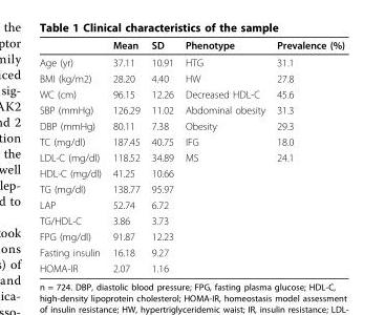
<table><thead><tr><td></td><td>Mean</td><td>SD</td><td>Phenotype</td><td>Prevalence (%)</td></tr></thead><tbody><tr><td>Age (yr)</td><td>37.11</td><td>10.91</td><td>HTG</td><td>31.1</td></tr><tr><td>BMI (kg/m2)</td><td>28.20</td><td>4.40</td><td>HW</td><td>27.8</td></tr><tr><td>WC (cm)</td><td>96.15</td><td>12.26</td><td>Decreased HDL-C</td><td>45.6</td></tr><tr><td>SBP (mmHg)</td><td>126.29</td><td>11.02</td><td>Abdominal obesity</td><td>31.3</td></tr><tr><td>DBP (mmHg)</td><td>80.11</td><td>7.38</td><td>Obesity</td><td>29.3</td></tr><tr><td>TC (mg/dl)</td><td>187.45</td><td>40.75</td><td>IFG</td><td>18.0</td></tr><tr><td>LDL-C (mg/dl)</td><td>118.52</td><td>34.89</td><td>MS</td><td>24.1</td></tr><tr><td>HDL-C (mg/dl)</td><td>41.25</td><td>10.66</td><td></td><td></td></tr><tr><td>TG (mg/dl)</td><td>138.77</td><td>95.97</td><td></td><td></td></tr><tr><td>LAP</td><td>52.74</td><td>6.72</td><td></td><td></td></tr><tr><td>TG/HDL-C</td><td>3.86</td><td>3.73</td><td></td><td></td></tr><tr><td>FPG (mg/dl)</td><td>91.87</td><td>12.23</td><td></td><td></td></tr><tr><td>Fasting insulin</td><td>16.18</td><td>9.27</td><td></td><td></td></tr><tr><td>HOMA-IR</td><td>2.07</td><td>1.16</td><td></td><td></td></tr></tbody></table>